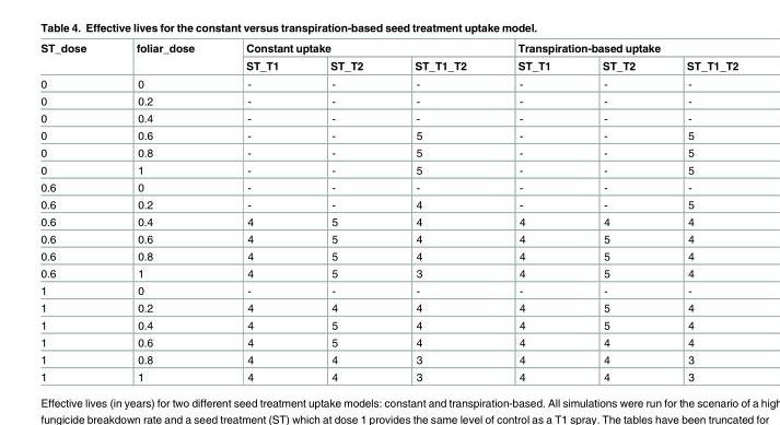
<table><thead><tr><td rowspan="2">ST_dose</td><td rowspan="2">foliar_dose</td><td colspan="3">Constant uptake</td><td colspan="3">Transpiration-based uptake</td></tr><tr><td>ST_T1</td><td>ST_T2</td><td>ST_T1_T2</td><td>ST_T1</td><td>ST_T2</td><td>ST_T1_T2</td></tr></thead><tbody><tr><td>0</td><td>0</td><td>-</td><td>-</td><td>-</td><td>-</td><td>-</td><td>-</td></tr><tr><td>0</td><td>0.2</td><td>-</td><td>-</td><td>-</td><td>-</td><td>-</td><td>-</td></tr><tr><td>0</td><td>0.4</td><td>-</td><td>-</td><td>-</td><td>-</td><td>-</td><td>-</td></tr><tr><td>0</td><td>0.6</td><td>-</td><td>-</td><td>5</td><td>-</td><td>-</td><td>5</td></tr><tr><td>0</td><td>0.8</td><td>-</td><td>-</td><td>5</td><td>-</td><td>-</td><td>5</td></tr><tr><td>0</td><td>1</td><td>-</td><td>-</td><td>5</td><td>-</td><td>-</td><td>5</td></tr><tr><td>0.6</td><td>0</td><td>-</td><td>-</td><td>-</td><td>-</td><td>-</td><td>-</td></tr><tr><td>0.6</td><td>0.2</td><td>-</td><td>-</td><td>4</td><td>-</td><td>-</td><td>5</td></tr><tr><td>0.6</td><td>0.4</td><td>4</td><td>5</td><td>4</td><td>4</td><td>4</td><td>4</td></tr><tr><td>0.6</td><td>0.6</td><td>4</td><td>5</td><td>4</td><td>4</td><td>5</td><td>4</td></tr><tr><td>0.6</td><td>0.8</td><td>4</td><td>5</td><td>4</td><td>4</td><td>5</td><td>4</td></tr><tr><td>0.6</td><td>1</td><td>4</td><td>5</td><td>3</td><td>4</td><td>5</td><td>4</td></tr><tr><td>1</td><td>0</td><td>-</td><td>-</td><td>-</td><td>-</td><td>-</td><td>-</td></tr><tr><td>1</td><td>0.2</td><td>4</td><td>4</td><td>4</td><td>4</td><td>5</td><td>4</td></tr><tr><td>1</td><td>0.4</td><td>4</td><td>5</td><td>4</td><td>4</td><td>5</td><td>4</td></tr><tr><td>1</td><td>0.6</td><td>4</td><td>5</td><td>4</td><td>4</td><td>4</td><td>4</td></tr><tr><td>1</td><td>0.8</td><td>4</td><td>4</td><td>3</td><td>4</td><td>4</td><td>3</td></tr><tr><td>1</td><td>1</td><td>4</td><td>4</td><td>3</td><td>4</td><td>4</td><td>3</td></tr></tbody></table>